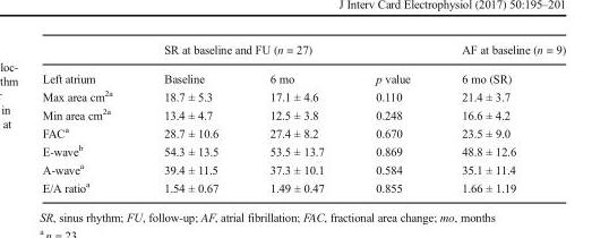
<table><thead><tr><td rowspan="2">Left atrium</td><td colspan="3">SR at baseline and FU (n = 27)</td><td rowspan="2">AF at baseline (n = 9) 6 mo (SR)</td></tr><tr><td>Baseline</td><td>6 mo</td><td>p value</td></tr></thead><tbody><tr><td>Max area cm<sup>2a</sup></td><td>18.7 ± 5.3</td><td>17.1 ± 4.6</td><td>0.110</td><td>21.4 ± 3.7</td></tr><tr><td>Min area cm<sup>2a</sup></td><td>13.4 ± 4.7</td><td>12.5 ± 3.8</td><td>0.248</td><td>16.6 ± 4.2</td></tr><tr><td>FAC<sup>a</sup></td><td>28.7 ± 10.6</td><td>27.4 ± 8.2</td><td>0.670</td><td>23.5 ± 9.0</td></tr><tr><td>E-wave<sup>b</sup></td><td>54.3 ± 13.5</td><td>53.5 ± 13.7</td><td>0.869</td><td>48.8 ± 12.6</td></tr><tr><td>A-wave<sup>a</sup></td><td>39.4 ± 11.5</td><td>37.3 ± 10.1</td><td>0.584</td><td>35.1 ± 11.4</td></tr><tr><td>E/A ratio<sup>a</sup></td><td>1.54 ± 0.67</td><td>1.49 ± 0.47</td><td>0.855</td><td>1.66 ± 1.19</td></tr></tbody></table>